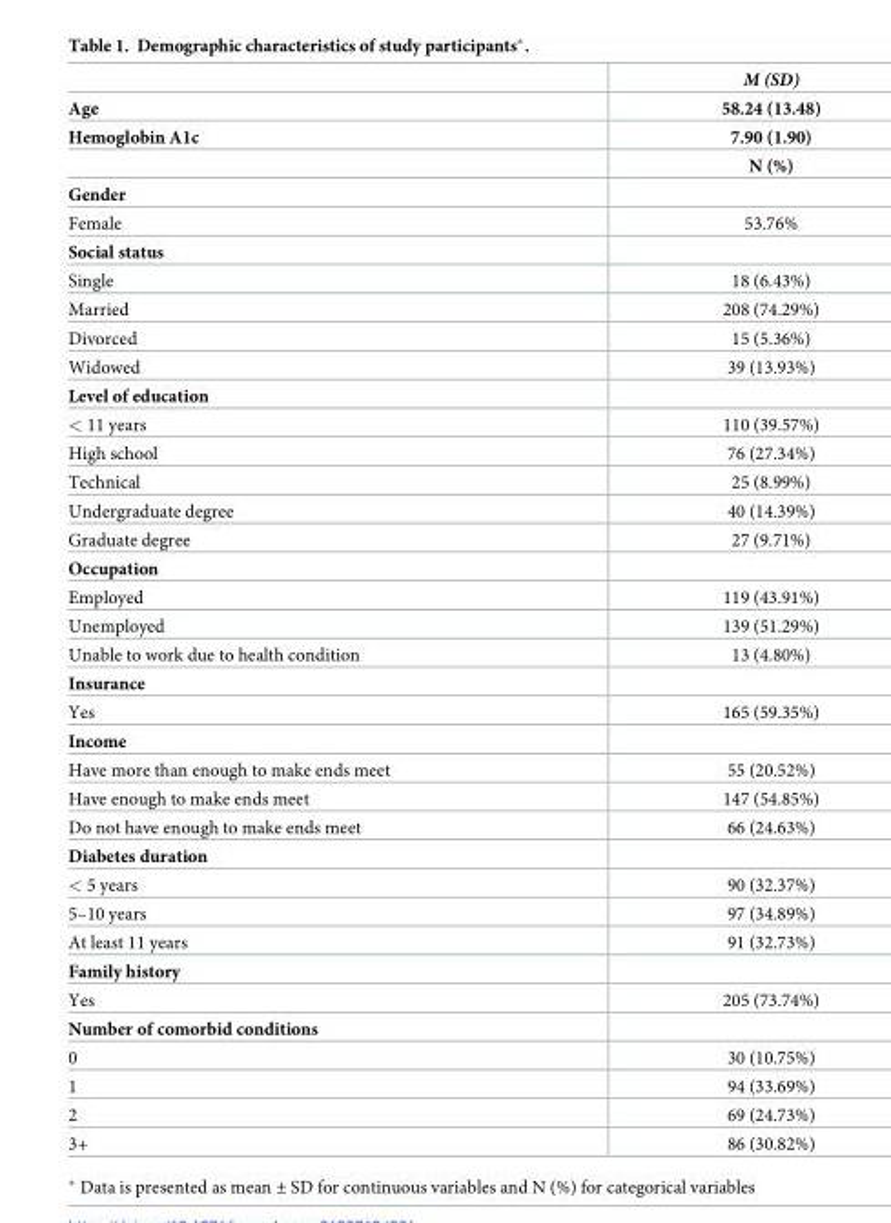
<table><thead><tr><td rowspan="4">Age Hemoglobin A1c</td><td rowspan="4">M (SD) 58.24 (13.48) 7.90 (1.90) N (%)</td></tr><tr></tr><tr></tr><tr></tr></thead><tbody><tr><td colspan="2">Gender</td></tr><tr><td>Female</td><td>53.76%</td></tr><tr><td colspan="2">Social status</td></tr><tr><td>Single</td><td>18 (6.43%)</td></tr><tr><td>Married</td><td>208 (74.29%)</td></tr><tr><td>Divorced</td><td>15 (5.36%)</td></tr><tr><td>Widowed</td><td>39 (13.93%)</td></tr><tr><td colspan="2">Level of education</td></tr><tr><td>&lt; 11 years</td><td>110 (39.57%)</td></tr><tr><td>High school</td><td>76 (27.34%)</td></tr><tr><td>Technical</td><td>25 (8.99%)</td></tr><tr><td>Undergraduate degree</td><td>40 (14.39%)</td></tr><tr><td>Graduate degree</td><td>27 (9.71%)</td></tr><tr><td colspan="2">Occupation</td></tr><tr><td>Employed</td><td>119 (43.91%)</td></tr><tr><td>Unemployed</td><td>139 (51.29%)</td></tr><tr><td>Unable to work due to health condition</td><td>13 (4.80%)</td></tr><tr><td colspan="2">Insurance</td></tr><tr><td>Yes</td><td>165 (59.35%)</td></tr><tr><td colspan="2">Income</td></tr><tr><td>Have more than enough to make ends meet</td><td>55 (20.52%)</td></tr><tr><td>Have enough to make ends meet</td><td>147 (54.85%)</td></tr><tr><td>Do not have enough to make ends meet</td><td>66 (24.63%)</td></tr><tr><td colspan="2">Diabetes duration</td></tr><tr><td>&lt; 5 years</td><td>90 (32.37%)</td></tr><tr><td>5–10 years</td><td>97 (34.89%)</td></tr><tr><td>At least 11 years</td><td>91 (32.73%)</td></tr><tr><td colspan="2">Family history</td></tr><tr><td>Yes</td><td>205 (73.74%)</td></tr><tr><td colspan="2">Number of comorbid conditions</td></tr><tr><td>0</td><td>30 (10.75%)</td></tr><tr><td>1</td><td>94 (33.69%)</td></tr><tr><td>2</td><td>69 (24.73%)</td></tr><tr><td>3+</td><td>86 (30.82%)</td></tr></tbody></table>